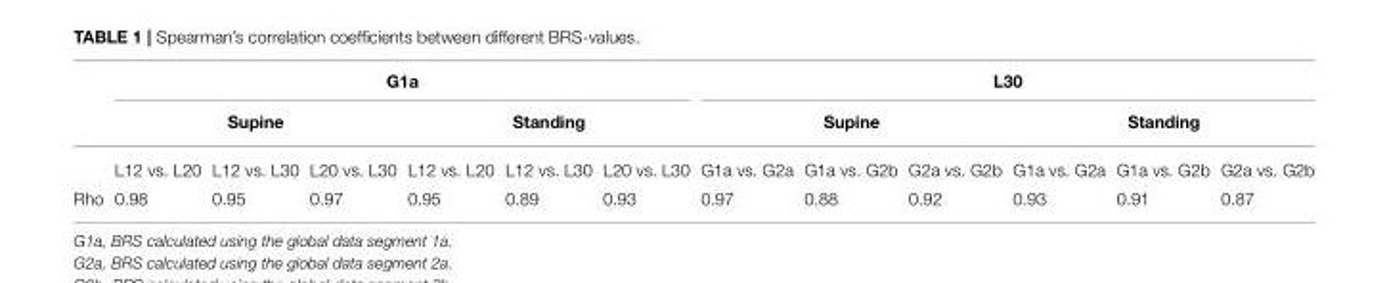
<table><thead><tr><td rowspan="3"></td><td colspan="6">G1a</td><td colspan="6">L30</td></tr><tr><td colspan="3">Supine</td><td colspan="3">Standing</td><td colspan="3">Supine</td><td colspan="3">Standing</td></tr><tr><td>L12 vs. L20</td><td>L12 vs. L30</td><td>L20 vs. L30</td><td>L12 vs. L20</td><td>L12 vs. L30</td><td>L20 vs. L30</td><td>G1a vs. G2a</td><td>G1a vs. G2b</td><td>G2a vs. G2b</td><td>G1a vs. G2a</td><td>G1a vs. G2b</td><td>G2a vs. G2b</td></tr></thead><tbody><tr><td>Rho</td><td>0.98</td><td>0.95</td><td>0.97</td><td>0.95</td><td>0.89</td><td>0.93</td><td>0.97</td><td>0.88</td><td>0.92</td><td>0.93</td><td>0.91</td><td>0.87</td></tr></tbody></table>